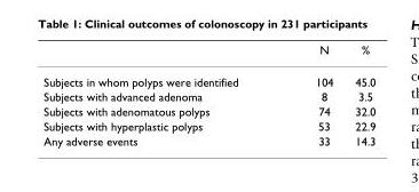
<table><thead><tr><td></td><td>N</td><td>%</td></tr></thead><tbody><tr><td>Subjects in whom polyps were identified</td><td>104</td><td>45.0</td></tr><tr><td>Subjects with advanced adenoma</td><td>8</td><td>3.5</td></tr><tr><td>Subjects with adenomatous polyps</td><td>74</td><td>32.0</td></tr><tr><td>Subjects with hyperplastic polyps</td><td>53</td><td>22.9</td></tr><tr><td>Any adverse events</td><td>33</td><td>14.3</td></tr></tbody></table>